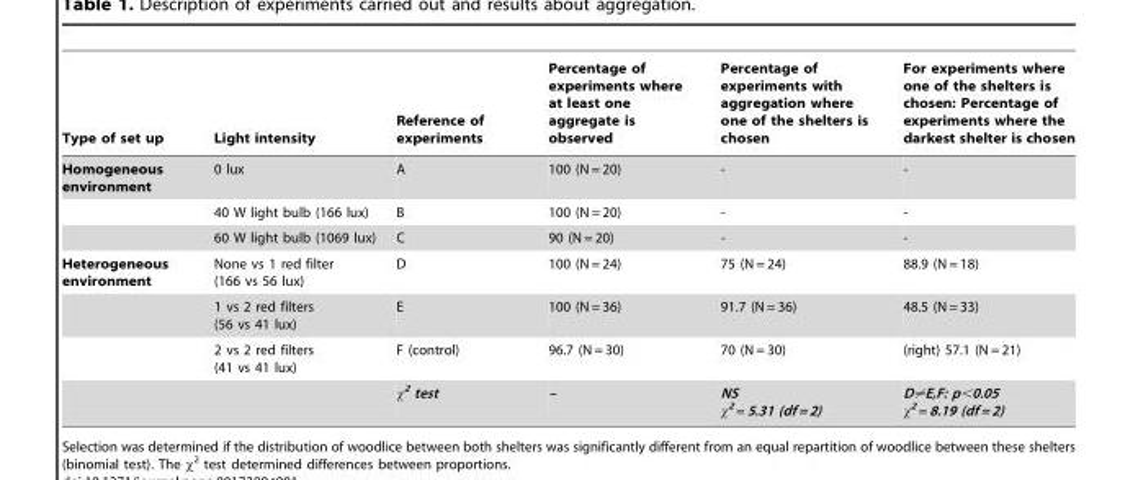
<table><thead><tr><td>Type of set up</td><td>Light intensity</td><td>Reference of experiments</td><td>Percentage of experiments where at least one aggregate is observed</td><td>Percentage of experiments with aggregation where one of the shelters is chosen</td><td>For experiments where one of the shelters is chosen: Percentage of experiments where the darkest shelter is chosen</td></tr></thead><tbody><tr><td rowspan="3">Homogeneous environment</td><td>0 lux</td><td>A</td><td>100 (N = 20)</td><td>-</td><td>-</td></tr><tr><td>40 W light bulb (166 lux)</td><td>B</td><td>100 (N = 20)</td><td>-</td><td>-</td></tr><tr><td>60 W light bulb (1069 lux)</td><td>C</td><td>90 (N = 20)</td><td>-</td><td>-</td></tr><tr><td rowspan="4">Heterogeneous environment</td><td>None vs 1 red filter (166 vs 56 lux)</td><td>D</td><td>100 (N = 24)</td><td>75 (N = 24)</td><td>88.9 (N = 18)</td></tr><tr><td>1 vs 2 red filters (56 vs 41 lux)</td><td>E</td><td>100 (N = 36)</td><td>91.7 (N = 36)</td><td>48.5 (N = 33)</td></tr><tr><td>2 vs 2 red filters (41 vs 41 lux)</td><td>F (control)</td><td>96.7 (N = 30)</td><td>70 (N = 30)</td><td>(right) 57.1 (N = 21)</td></tr><tr><td></td><td>χ<sup>2</sup> test</td><td>–</td><td>NS χ<sup>2</sup> = 5.31 (df = 2)</td><td>D≠E,F: p&lt;0.05 χ<sup>2</sup> = 8.19 (df = 2)</td></tr></tbody></table>